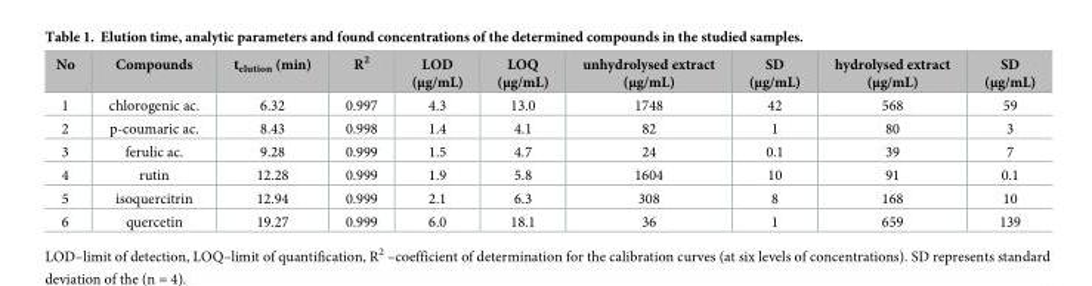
<table><thead><tr><td>No</td><td>Compounds</td><td>t<sub>elution</sub> (min)</td><td>R<sup>2</sup></td><td>LOD (μg/mL)</td><td>LOQ (μg/mL)</td><td>unhydrolysed extract (μg/mL)</td><td>SD (μg/mL)</td><td>hydrolysed extract (μg/mL)</td><td>SD (μg/mL)</td></tr></thead><tbody><tr><td>1</td><td>chlorogenic ac.</td><td>6.32</td><td>0.997</td><td>4.3</td><td>13.0</td><td>1748</td><td>42</td><td>568</td><td>59</td></tr><tr><td>2</td><td>p-coumaric ac.</td><td>8.43</td><td>0.998</td><td>1.4</td><td>4.1</td><td>82</td><td>1</td><td>80</td><td>3</td></tr><tr><td>3</td><td>ferulic ac.</td><td>9.28</td><td>0.999</td><td>1.5</td><td>4.7</td><td>24</td><td>0.1</td><td>39</td><td>7</td></tr><tr><td>4</td><td>rutin</td><td>12.28</td><td>0.999</td><td>1.9</td><td>5.8</td><td>1604</td><td>10</td><td>91</td><td>0.1</td></tr><tr><td>5</td><td>isoquercitrin</td><td>12.94</td><td>0.999</td><td>2.1</td><td>6.3</td><td>308</td><td>8</td><td>168</td><td>10</td></tr><tr><td>6</td><td>quercetin</td><td>19.27</td><td>0.999</td><td>6.0</td><td>18.1</td><td>36</td><td>1</td><td>659</td><td>139</td></tr></tbody></table>